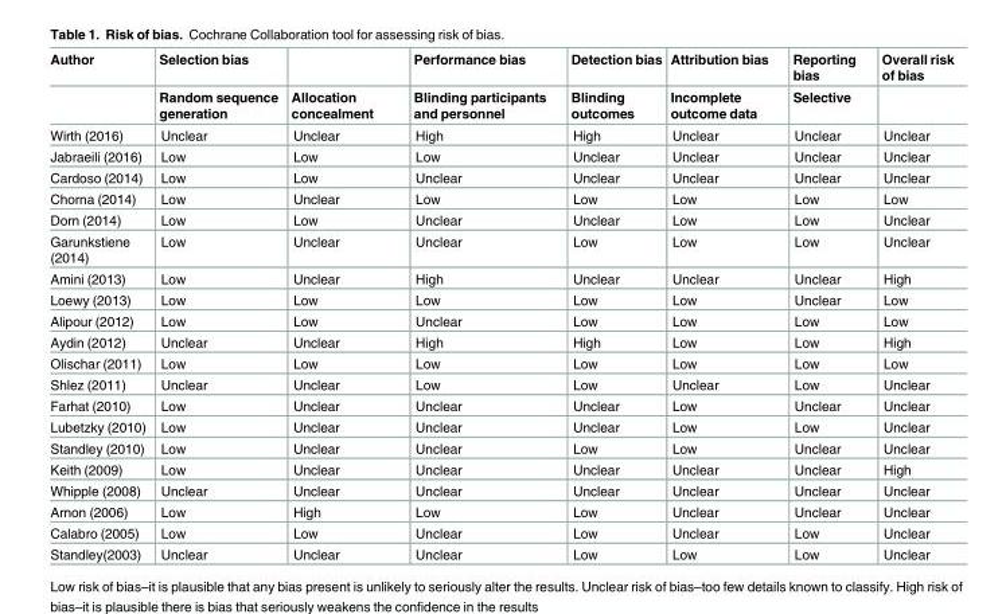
<table><thead><tr><td rowspan="2">Author</td><td rowspan="2">Selection bias Random sequence generation</td><td rowspan="2">Allocation concealment</td><td rowspan="2">Performance bias Blinding participants and personnel</td><td rowspan="2">Detection bias Blinding outcomes</td><td rowspan="2">Attribution bias Incomplete outcome data</td><td rowspan="2">Reporting bias Selective</td><td rowspan="2">Overall risk of bias</td></tr><tr></tr></thead><tbody><tr><td>Wirth (2016)</td><td>Unclear</td><td>Unclear</td><td>High</td><td>High</td><td>Unclear</td><td>Unclear</td><td>Unclear</td></tr><tr><td>Jabraeili (2016)</td><td>Low</td><td>Low</td><td>Low</td><td>Unclear</td><td>Unclear</td><td>Unclear</td><td>Unclear</td></tr><tr><td>Cardoso (2014)</td><td>Low</td><td>Low</td><td>Unclear</td><td>Unclear</td><td>Unclear</td><td>Unclear</td><td>Unclear</td></tr><tr><td>Chorna (2014)</td><td>Low</td><td>Unclear</td><td>Low</td><td>Low</td><td>Low</td><td>Low</td><td>Low</td></tr><tr><td>Dorn (2014)</td><td>Low</td><td>Low</td><td>Unclear</td><td>Unclear</td><td>Low</td><td>Low</td><td>Unclear</td></tr><tr><td>Garunkstiene (2014)</td><td>Low</td><td>Unclear</td><td>Unclear</td><td>Low</td><td>Low</td><td>Low</td><td>Unclear</td></tr><tr><td>Amini (2013)</td><td>Low</td><td>Unclear</td><td>High</td><td>Unclear</td><td>Unclear</td><td>Unclear</td><td>High</td></tr><tr><td>Loewy (2013)</td><td>Low</td><td>Low</td><td>Low</td><td>Low</td><td>Low</td><td>Unclear</td><td>Low</td></tr><tr><td>Alipour (2012)</td><td>Low</td><td>Low</td><td>Unclear</td><td>Low</td><td>Low</td><td>Low</td><td>Low</td></tr><tr><td>Aydin (2012)</td><td>Unclear</td><td>Unclear</td><td>High</td><td>High</td><td>Low</td><td>Low</td><td>High</td></tr><tr><td>Olischar (2011)</td><td>Low</td><td>Low</td><td>Low</td><td>Low</td><td>Low</td><td>Low</td><td>Low</td></tr><tr><td>Shlez (2011)</td><td>Unclear</td><td>Unclear</td><td>Low</td><td>Low</td><td>Unclear</td><td>Low</td><td>Unclear</td></tr><tr><td>Farhat (2010)</td><td>Low</td><td>Unclear</td><td>Unclear</td><td>Unclear</td><td>Low</td><td>Unclear</td><td>Unclear</td></tr><tr><td>Lubetzky (2010)</td><td>Low</td><td>Unclear</td><td>Unclear</td><td>Unclear</td><td>Low</td><td>Low</td><td>Unclear</td></tr><tr><td>Standley (2010)</td><td>Low</td><td>Unclear</td><td>Unclear</td><td>Low</td><td>Low</td><td>Unclear</td><td>Unclear</td></tr><tr><td>Keith (2009)</td><td>Low</td><td>Unclear</td><td>Unclear</td><td>Unclear</td><td>Unclear</td><td>Unclear</td><td>High</td></tr><tr><td>Whipple (2008)</td><td>Unclear</td><td>Unclear</td><td>Unclear</td><td>Unclear</td><td>Unclear</td><td>Unclear</td><td>Unclear</td></tr><tr><td>Arnon (2006)</td><td>Low</td><td>High</td><td>Low</td><td>Low</td><td>Unclear</td><td>Unclear</td><td>Unclear</td></tr><tr><td>Calabro (2005)</td><td>Low</td><td>Low</td><td>Unclear</td><td>Low</td><td>Unclear</td><td>Low</td><td>Unclear</td></tr><tr><td>Standley(2003)</td><td>Unclear</td><td>Unclear</td><td>Unclear</td><td>Low</td><td>Low</td><td>Low</td><td>Unclear</td></tr></tbody></table>